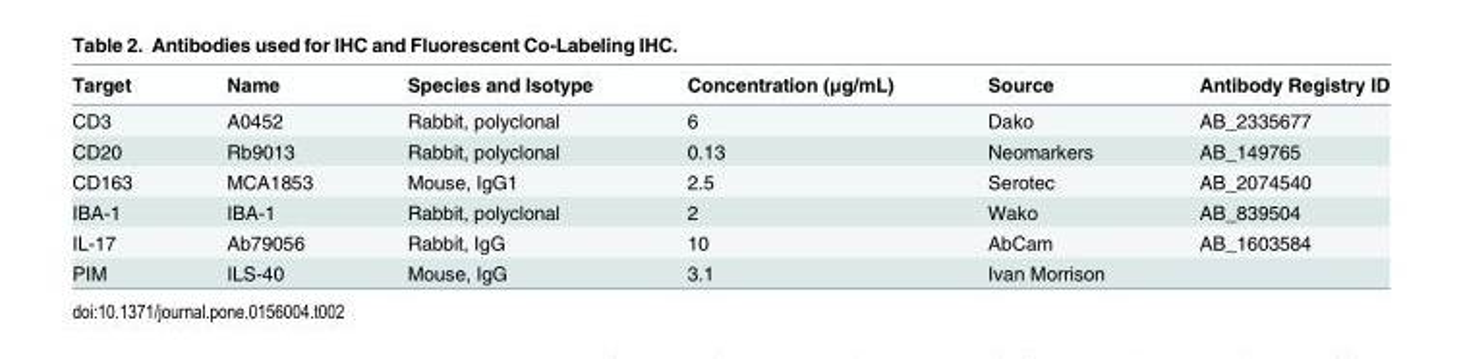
<table><thead><tr><td>Target</td><td>Name</td><td>Species and Isotype</td><td>Concentration (μg/mL)</td><td>Source</td><td>Antibody Registry ID</td></tr></thead><tbody><tr><td>CD3</td><td>A0452</td><td>Rabbit, polyclonal</td><td>6</td><td>Dako</td><td>AB_2335677</td></tr><tr><td>CD20</td><td>Rb9013</td><td>Rabbit, polyclonal</td><td>0.13</td><td>Neomarkers</td><td>AB_149765</td></tr><tr><td>CD163</td><td>MCA1853</td><td>Mouse, IgG1</td><td>2.5</td><td>Serotec</td><td>AB_2074540</td></tr><tr><td>IBA-1</td><td>IBA-1</td><td>Rabbit, polyclonal</td><td>2</td><td>Wako</td><td>AB_839504</td></tr><tr><td>IL-17</td><td>Ab79056</td><td>Rabbit, IgG</td><td>10</td><td>AbCam</td><td>AB_1603584</td></tr><tr><td>PIM</td><td>ILS-40</td><td>Mouse, IgG</td><td>3.1</td><td>Ivan Morrison</td><td></td></tr></tbody></table>